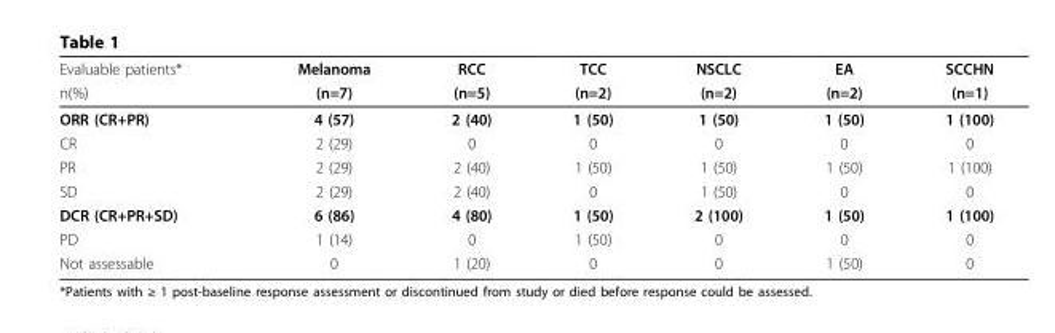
<table><thead><tr><td rowspan="2">Evaluable patients* n(%)</td><td rowspan="2">Melanoma (n=7)</td><td rowspan="2">RCC (n=5)</td><td rowspan="2">TCC (n=2)</td><td rowspan="2">NSCLC (n=2)</td><td rowspan="2">EA (n=2)</td><td rowspan="2">SCCHN (n=1)</td></tr><tr></tr></thead><tbody><tr><td>ORR (CR+PR)</td><td>4 (57)</td><td>2 (40)</td><td>1 (50)</td><td>1 (50)</td><td>1 (50)</td><td>1 (100)</td></tr><tr><td>CR</td><td>2 (29)</td><td>0</td><td>0</td><td>0</td><td>0</td><td>0</td></tr><tr><td>PR</td><td>2 (29)</td><td>2 (40)</td><td>1 (50)</td><td>1 (50)</td><td>1 (50)</td><td>1 (100)</td></tr><tr><td>SD</td><td>2 (29)</td><td>2 (40)</td><td>0</td><td>1 (50)</td><td>0</td><td>0</td></tr><tr><td>DCR (CR+PR+SD)</td><td>6 (86)</td><td>4 (80)</td><td>1 (50)</td><td>2 (100)</td><td>1 (50)</td><td>1 (100)</td></tr><tr><td>PD</td><td>1 (14)</td><td>0</td><td>1 (50)</td><td>0</td><td>0</td><td>0</td></tr><tr><td>Not assessable</td><td>0</td><td>1 (20)</td><td>0</td><td>0</td><td>1 (50)</td><td>0</td></tr></tbody></table>